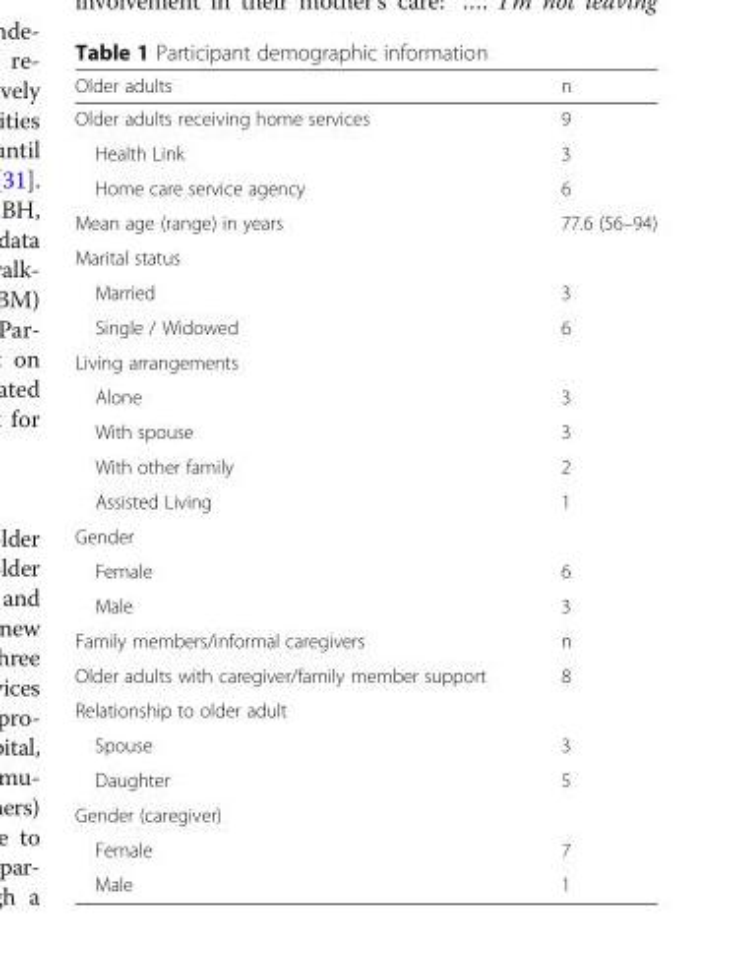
<table><thead><tr><td>Older adults</td><td>n</td></tr></thead><tbody><tr><td>Older adults receiving home services</td><td>9</td></tr><tr><td>Health Link</td><td>3</td></tr><tr><td>Home care service agency</td><td>6</td></tr><tr><td>Mean age (range) in years</td><td>77.6 (56–94)</td></tr><tr><td colspan="2">Marital status</td></tr><tr><td>Married</td><td>3</td></tr><tr><td>Single / Widowed</td><td>6</td></tr><tr><td colspan="2">Living arrangements</td></tr><tr><td>Alone</td><td>3</td></tr><tr><td>With spouse</td><td>3</td></tr><tr><td>With other family</td><td>2</td></tr><tr><td>Assisted Living</td><td>1</td></tr><tr><td colspan="2">Gender</td></tr><tr><td>Female</td><td>6</td></tr><tr><td>Male</td><td>3</td></tr><tr><td>Family members/informal caregivers</td><td>n</td></tr><tr><td>Older adults with caregiver/family member support</td><td>8</td></tr><tr><td colspan="2">Relationship to older adult</td></tr><tr><td>Spouse</td><td>3</td></tr><tr><td>Daughter</td><td>5</td></tr><tr><td colspan="2">Gender (caregiver)</td></tr><tr><td>Female</td><td>7</td></tr><tr><td>Male</td><td>1</td></tr></tbody></table>